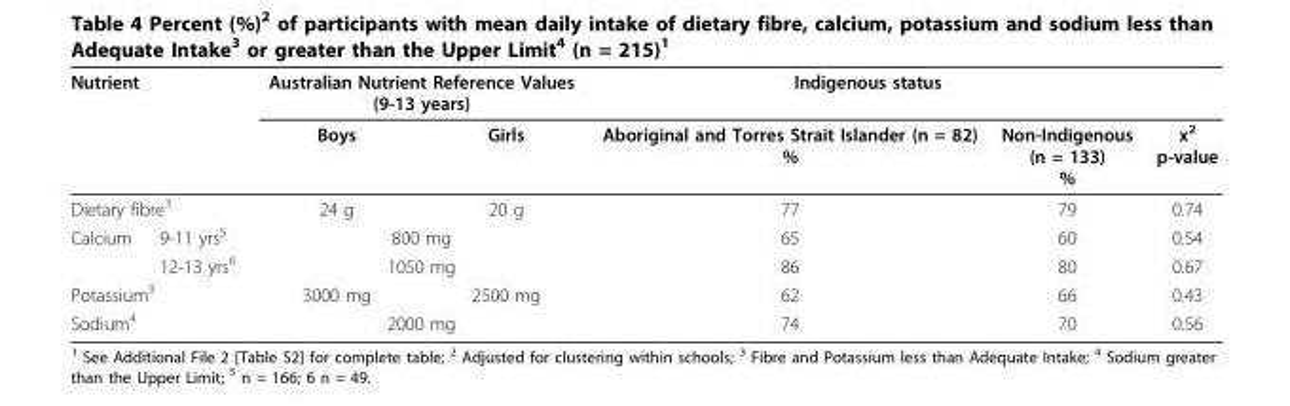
<table><thead><tr><td colspan="2">Nutrient</td><td colspan="2">Australian Nutrient Reference Values (9-13 years)</td><td colspan="2">Indigenous status</td><td rowspan="2">x<sup>2</sup> p-value</td></tr><tr><td></td><td></td><td>Boys</td><td>Girls</td><td>Aboriginal and Torres Strait Islander (n = 82) %</td><td>Non-Indigenous (n = 133) %</td></tr></thead><tbody><tr><td colspan="2">Dietary fibre<sup>3</sup></td><td>24 g</td><td>20 g</td><td>77</td><td>79</td><td>0.74</td></tr><tr><td rowspan="2">Calcium</td><td>9-11 yrs<sup>5</sup></td><td colspan="2">800 mg</td><td>65</td><td>60</td><td>0.54</td></tr><tr><td>12-13 yrs<sup>6</sup></td><td colspan="2">1050 mg</td><td>86</td><td>80</td><td>0.67</td></tr><tr><td colspan="2">Potassium<sup>3</sup></td><td>3000 mg</td><td>2500 mg</td><td>62</td><td>66</td><td>0.43</td></tr><tr><td>Sodium<sup>4</sup></td><td></td><td colspan="2">2000 mg</td><td>74</td><td>70</td><td>0.56</td></tr></tbody></table>